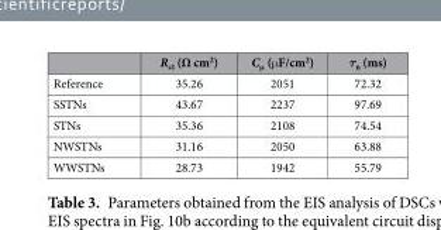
<table><thead><tr><td></td><td>R<sub>ct</sub> (Ω cm<sup>2</sup>)</td><td>C<sub>μ</sub> (μ F/cm<sup>2</sup>)</td><td>τ<sub>n</sub> (ms)</td></tr></thead><tbody><tr><td>Reference</td><td>35.26</td><td>2051</td><td>72.32</td></tr><tr><td>SSTNs</td><td>43.67</td><td>2237</td><td>97.69</td></tr><tr><td>STNs</td><td>35.36</td><td>2108</td><td>74.54</td></tr><tr><td>NWSTNs</td><td>31.16</td><td>2050</td><td>63.88</td></tr><tr><td>WWSTNs</td><td>28.73</td><td>1942</td><td>55.79</td></tr></tbody></table>